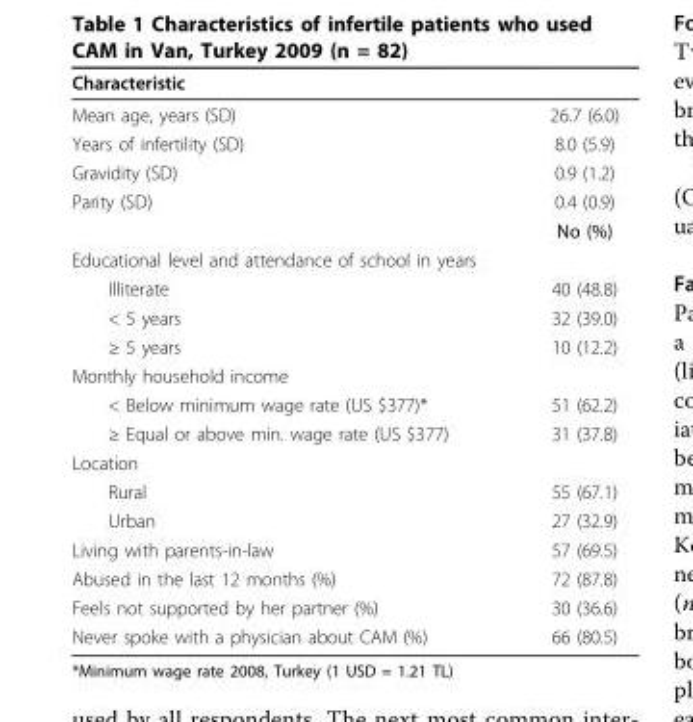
<table><thead><tr><td>Characteristic</td><td></td></tr></thead><tbody><tr><td>Mean age, years (SD)</td><td>26.7 (6.0)</td></tr><tr><td>Years of infertility (SD)</td><td>8.0 (5.9)</td></tr><tr><td>Gravidity (SD)</td><td>0.9 (1.2)</td></tr><tr><td rowspan="2">Parity (SD)</td><td>0.4 (0.9)</td></tr><tr><td>No (%)</td></tr><tr><td colspan="2">Educational level and attendance of school in years</td></tr><tr><td>Illiterate</td><td>40 (48.8)</td></tr><tr><td>&lt; 5 years</td><td>32 (39.0)</td></tr><tr><td>≥ 5 years</td><td>10 (12.2)</td></tr><tr><td colspan="2">Monthly household income</td></tr><tr><td>&lt; Below minimum wage rate (US $377)*</td><td>51 (62.2)</td></tr><tr><td>≥ Equal or above min. wage rate (US $377)</td><td>31 (37.8)</td></tr><tr><td colspan="2">Location</td></tr><tr><td>Rural</td><td>55 (67.1)</td></tr><tr><td>Urban</td><td>27 (32.9)</td></tr><tr><td>Living with parents-in-law</td><td>57 (69.5)</td></tr><tr><td>Abused in the last 12 months (%)</td><td>72 (87.8)</td></tr><tr><td>Feels not supported by her partner (%)</td><td>30 (36.6)</td></tr><tr><td>Never spoke with a physician about CAM (%)</td><td>66 (80.5)</td></tr></tbody></table>